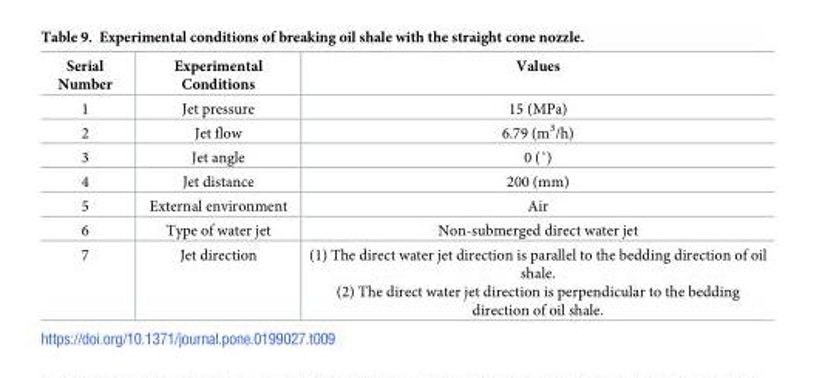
<table><thead><tr><td>Serial Number</td><td>Experimental Conditions</td><td>Values</td></tr></thead><tbody><tr><td>1</td><td>Jet pressure</td><td>15 (MPa)</td></tr><tr><td>2</td><td>Jet flow</td><td>6.79 (m<sup>3</sup>/h)</td></tr><tr><td>3</td><td>Jet angle</td><td>0 (˚)</td></tr><tr><td>4</td><td>Jet distance</td><td>200 (mm)</td></tr><tr><td>5</td><td>External environment</td><td>Air</td></tr><tr><td>6</td><td>Type of water jet</td><td>Non-submerged direct water jet</td></tr><tr><td>7</td><td>Jet direction</td><td>(1) The direct water jet direction is parallel to the bedding direction of oil shale. (2) The direct water jet direction is perpendicular to the bedding direction of oil shale.</td></tr></tbody></table>